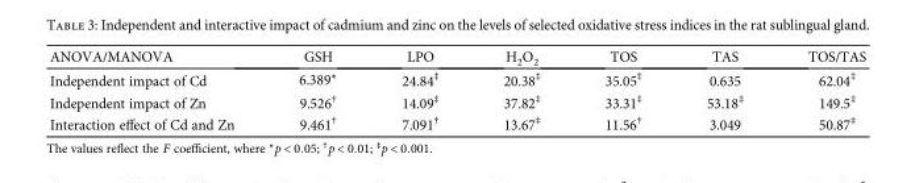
<table><thead><tr><td>ANOVA/MANOVA</td><td>GSH</td><td>LPO</td><td>H<sub>2</sub>O<sub>2</sub></td><td>TOS</td><td>TAS</td><td>TOS/TAS</td></tr></thead><tbody><tr><td>Independent impact of Cd</td><td>6.389∗</td><td>24.84<sup>‡</sup></td><td>20.38<sup>‡</sup></td><td>35.05<sup>‡</sup></td><td>0.635</td><td>62.04<sup>‡</sup></td></tr><tr><td>Independent impact of Zn</td><td>9.526<sup>†</sup></td><td>14.09<sup>‡</sup></td><td>37.82<sup>‡</sup></td><td>33.31<sup>‡</sup></td><td>53.18<sup>‡</sup></td><td>149.5<sup>‡</sup></td></tr><tr><td>Interaction effect of Cd and Zn</td><td>9.461<sup>†</sup></td><td>7.091<sup>†</sup></td><td>13.67<sup>‡</sup></td><td>11.56<sup>†</sup></td><td>3.049</td><td>50.87<sup>‡</sup></td></tr></tbody></table>